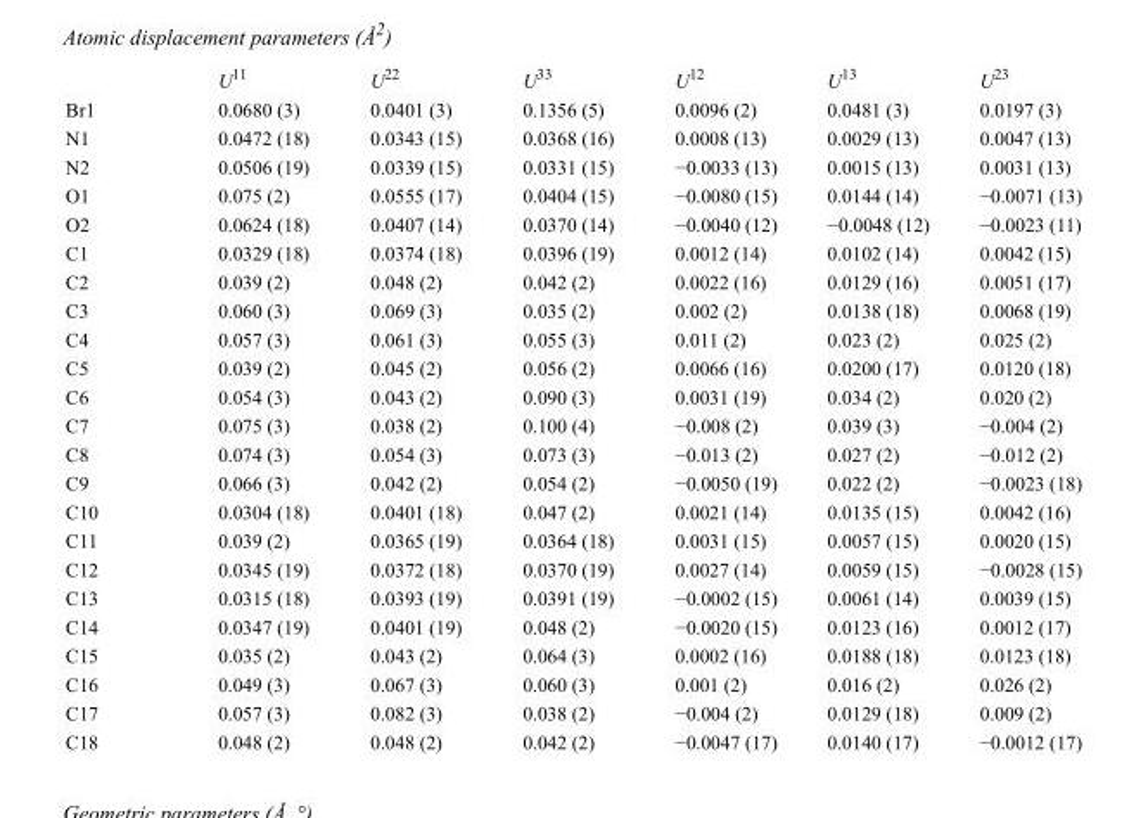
<table><thead><tr><td></td><td>U<sup>11</sup></td><td>U<sup>22</sup></td><td>U<sup>33</sup></td><td>U<sup>12</sup></td><td>U<sup>13</sup></td><td>U<sup>23</sup></td></tr></thead><tbody><tr><td>Br1</td><td>0.0680 (3)</td><td>0.0401 (3)</td><td>0.1356 (5)</td><td>0.0096 (2)</td><td>0.0481 (3)</td><td>0.0197 (3)</td></tr><tr><td>N1</td><td>0.0472 (18)</td><td>0.0343 (15)</td><td>0.0368 (16)</td><td>0.0008 (13)</td><td>0.0029 (13)</td><td>0.0047 (13)</td></tr><tr><td>N2</td><td>0.0506 (19)</td><td>0.0339 (15)</td><td>0.0331 (15)</td><td>−0.0033 (13)</td><td>0.0015 (13)</td><td>0.0031 (13)</td></tr><tr><td>O1</td><td>0.075 (2)</td><td>0.0555 (17)</td><td>0.0404 (15)</td><td>−0.0080 (15)</td><td>0.0144 (14)</td><td>−0.0071 (13)</td></tr><tr><td>O2</td><td>0.0624 (18)</td><td>0.0407 (14)</td><td>0.0370 (14)</td><td>−0.0040 (12)</td><td>−0.0048 (12)</td><td>−0.0023 (11)</td></tr><tr><td>C1</td><td>0.0329 (18)</td><td>0.0374 (18)</td><td>0.0396 (19)</td><td>0.0012 (14)</td><td>0.0102 (14)</td><td>0.0042 (15)</td></tr><tr><td>C2</td><td>0.039 (2)</td><td>0.048 (2)</td><td>0.042 (2)</td><td>0.0022 (16)</td><td>0.0129 (16)</td><td>0.0051 (17)</td></tr><tr><td>C3</td><td>0.060 (3)</td><td>0.069 (3)</td><td>0.035 (2)</td><td>0.002 (2)</td><td>0.0138 (18)</td><td>0.0068 (19)</td></tr><tr><td>C4</td><td>0.057 (3)</td><td>0.061 (3)</td><td>0.055 (3)</td><td>0.011 (2)</td><td>0.023 (2)</td><td>0.025 (2)</td></tr><tr><td>C5</td><td>0.039 (2)</td><td>0.045 (2)</td><td>0.056 (2)</td><td>0.0066 (16)</td><td>0.0200 (17)</td><td>0.0120 (18)</td></tr><tr><td>C6</td><td>0.054 (3)</td><td>0.043 (2)</td><td>0.090 (3)</td><td>0.0031 (19)</td><td>0.034 (2)</td><td>0.020 (2)</td></tr><tr><td>C7</td><td>0.075 (3)</td><td>0.038 (2)</td><td>0.100 (4)</td><td>−0.008 (2)</td><td>0.039 (3)</td><td>−0.004 (2)</td></tr><tr><td>C8</td><td>0.074 (3)</td><td>0.054 (3)</td><td>0.073 (3)</td><td>−0.013 (2)</td><td>0.027 (2)</td><td>−0.012 (2)</td></tr><tr><td>C9</td><td>0.066 (3)</td><td>0.042 (2)</td><td>0.054 (2)</td><td>−0.0050 (19)</td><td>0.022 (2)</td><td>−0.0023 (18)</td></tr><tr><td>C10</td><td>0.0304 (18)</td><td>0.0401 (18)</td><td>0.047 (2)</td><td>0.0021 (14)</td><td>0.0135 (15)</td><td>0.0042 (16)</td></tr><tr><td>C11</td><td>0.039 (2)</td><td>0.0365 (19)</td><td>0.0364 (18)</td><td>0.0031 (15)</td><td>0.0057 (15)</td><td>0.0020 (15)</td></tr><tr><td>C12</td><td>0.0345 (19)</td><td>0.0372 (18)</td><td>0.0370 (19)</td><td>0.0027 (14)</td><td>0.0059 (15)</td><td>−0.0028 (15)</td></tr><tr><td>C13</td><td>0.0315 (18)</td><td>0.0393 (19)</td><td>0.0391 (19)</td><td>−0.0002 (15)</td><td>0.0061 (14)</td><td>0.0039 (15)</td></tr><tr><td>C14</td><td>0.0347 (19)</td><td>0.0401 (19)</td><td>0.048 (2)</td><td>−0.0020 (15)</td><td>0.0123 (16)</td><td>0.0012 (17)</td></tr><tr><td>C15</td><td>0.035 (2)</td><td>0.043 (2)</td><td>0.064 (3)</td><td>0.0002 (16)</td><td>0.0188 (18)</td><td>0.0123 (18)</td></tr><tr><td>C16</td><td>0.049 (3)</td><td>0.067 (3)</td><td>0.060 (3)</td><td>0.001 (2)</td><td>0.016 (2)</td><td>0.026 (2)</td></tr><tr><td>C17</td><td>0.057 (3)</td><td>0.082 (3)</td><td>0.038 (2)</td><td>−0.004 (2)</td><td>0.0129 (18)</td><td>0.009 (2)</td></tr><tr><td>C18</td><td>0.048 (2)</td><td>0.048 (2)</td><td>0.042 (2)</td><td>−0.0047 (17)</td><td>0.0140 (17)</td><td>−0.0012 (17)</td></tr></tbody></table>